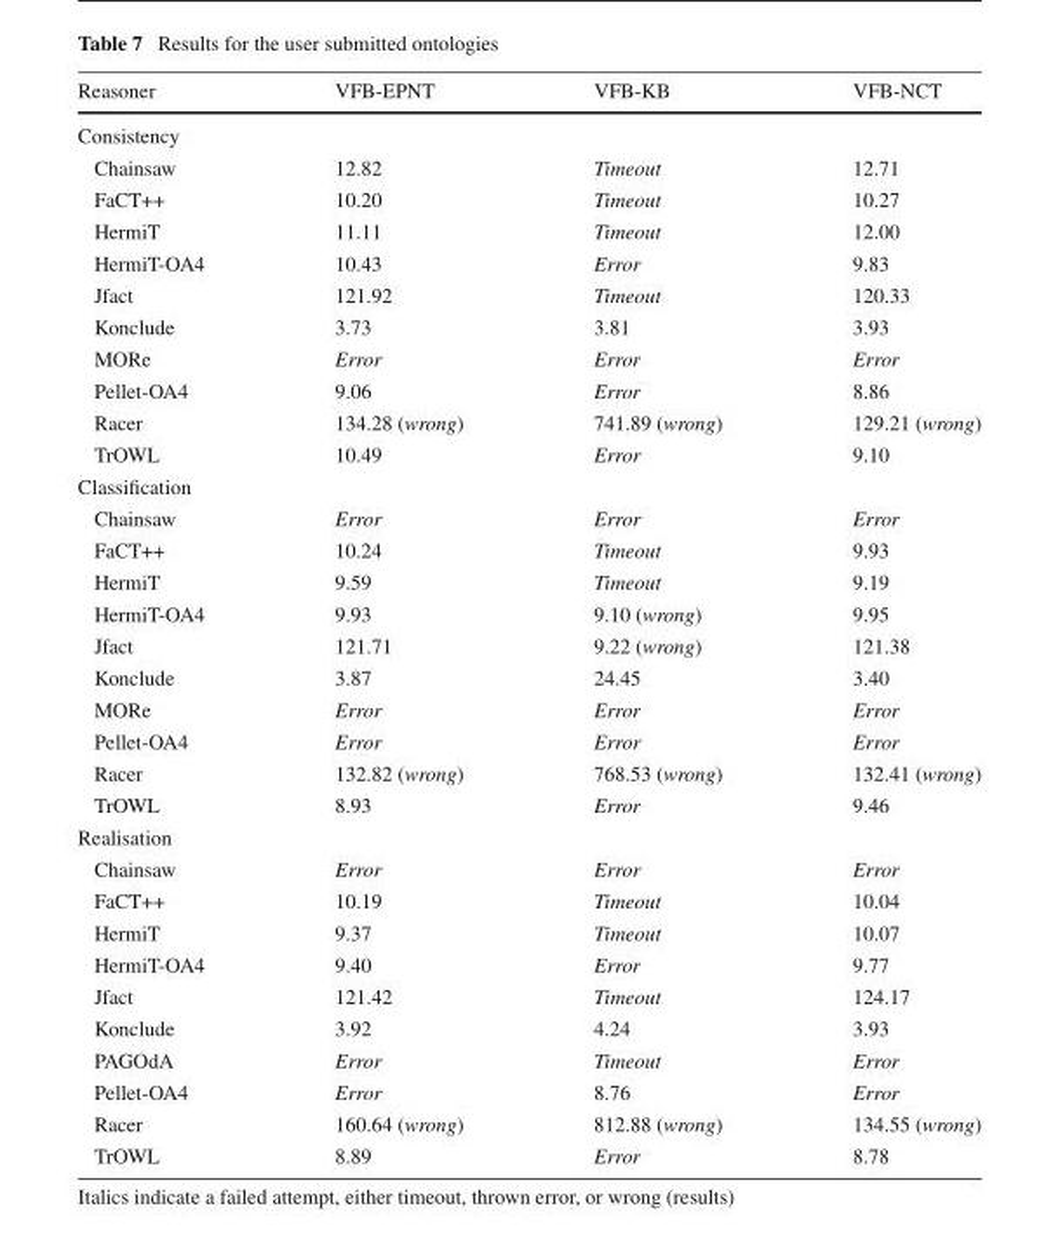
<table><thead><tr><td>Reasoner</td><td>VFB-EPNT</td><td>VFB-KB</td><td>VFB-NCT</td></tr></thead><tbody><tr><td colspan="4">Consistency</td></tr><tr><td>Chainsaw</td><td>12.82</td><td>Timeout</td><td>12.71</td></tr><tr><td>FaCT++</td><td>10.20</td><td>Timeout</td><td>10.27</td></tr><tr><td>HermiT</td><td>11.11</td><td>Timeout</td><td>12.00</td></tr><tr><td>HermiT-OA4</td><td>10.43</td><td>Error</td><td>9.83</td></tr><tr><td>Jfact</td><td>121.92</td><td>Timeout</td><td>120.33</td></tr><tr><td>Konclude</td><td>3.73</td><td>3.81</td><td>3.93</td></tr><tr><td>MORe</td><td>Error</td><td>Error</td><td>Error</td></tr><tr><td>Pellet-OA4</td><td>9.06</td><td>Error</td><td>8.86</td></tr><tr><td>Racer</td><td>134.28 (wrong)</td><td>741.89 (wrong)</td><td>129.21 (wrong)</td></tr><tr><td>TrOWL</td><td>10.49</td><td>Error</td><td>9.10</td></tr><tr><td colspan="4">Classification</td></tr><tr><td>Chainsaw</td><td>Error</td><td>Error</td><td>Error</td></tr><tr><td>FaCT++</td><td>10.24</td><td>Timeout</td><td>9.93</td></tr><tr><td>HermiT</td><td>9.59</td><td>Timeout</td><td>9.19</td></tr><tr><td>HermiT-OA4</td><td>9.93</td><td>9.10 (wrong)</td><td>9.95</td></tr><tr><td>Jfact</td><td>121.71</td><td>9.22 (wrong)</td><td>121.38</td></tr><tr><td>Konclude</td><td>3.87</td><td>24.45</td><td>3.40</td></tr><tr><td>MORe</td><td>Error</td><td>Error</td><td>Error</td></tr><tr><td>Pellet-OA4</td><td>Error</td><td>Error</td><td>Error</td></tr><tr><td>Racer</td><td>132.82 (wrong)</td><td>768.53 (wrong)</td><td>132.41 (wrong)</td></tr><tr><td>TrOWL</td><td>8.93</td><td>Error</td><td>9.46</td></tr><tr><td colspan="4">Realisation</td></tr><tr><td>Chainsaw</td><td>Error</td><td>Error</td><td>Error</td></tr><tr><td>FaCT++</td><td>10.19</td><td>Timeout</td><td>10.04</td></tr><tr><td>HermiT</td><td>9.37</td><td>Timeout</td><td>10.07</td></tr><tr><td>HermiT-OA4</td><td>9.40</td><td>Error</td><td>9.77</td></tr><tr><td>Jfact</td><td>121.42</td><td>Timeout</td><td>124.17</td></tr><tr><td>Konclude</td><td>3.92</td><td>4.24</td><td>3.93</td></tr><tr><td>PAGOdA</td><td>Error</td><td>Timeout</td><td>Error</td></tr><tr><td>Pellet-OA4</td><td>Error</td><td>8.76</td><td>Error</td></tr><tr><td>Racer</td><td>160.64 (wrong)</td><td>812.88 (wrong)</td><td>134.55 (wrong)</td></tr><tr><td>TrOWL</td><td>8.89</td><td>Error</td><td>8.78</td></tr></tbody></table>